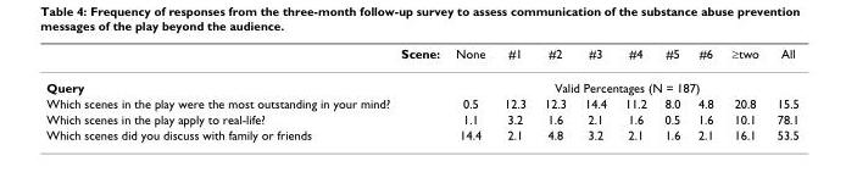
<table><thead><tr><td>Scene:</td><td>None</td><td>#1</td><td>#2</td><td>#3</td><td>#4</td><td>#5</td><td>#6</td><td>≥two</td><td>All</td></tr></thead><tbody><tr><td>Query</td><td colspan="9">Valid Percentages (N = 187)</td></tr><tr><td>Which scenes in the play were the most outstanding in your mind?</td><td>0.5</td><td>12.3</td><td>12.3</td><td>14.4</td><td>11.2</td><td>8.0</td><td>4.8</td><td>20.8</td><td>15.5</td></tr><tr><td>Which scenes in the play apply to real-life?</td><td>1.1</td><td>3.2</td><td>1.6</td><td>2.1</td><td>1.6</td><td>0.5</td><td>1.6</td><td>10.1</td><td>78.1</td></tr><tr><td>Which scenes did you discuss with family or friends</td><td>14.4</td><td>2.1</td><td>4.8</td><td>3.2</td><td>2.1</td><td>1.6</td><td>2.1</td><td>16.1</td><td>53.5</td></tr></tbody></table>